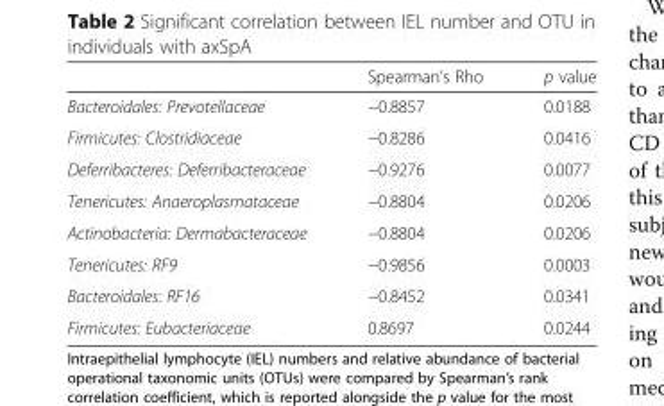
<table><thead><tr><td></td><td>Spearman’s Rho</td><td>p value</td></tr></thead><tbody><tr><td>Bacteroidales: Prevotellaceae</td><td>−0.8857</td><td>0.0188</td></tr><tr><td>Firmicutes: Clostridiaceae</td><td>−0.8286</td><td>0.0416</td></tr><tr><td>Deferribacteres: Deferribacteraceae</td><td>−0.9276</td><td>0.0077</td></tr><tr><td>Tenericutes: Anaeroplasmataceae</td><td>−0.8804</td><td>0.0206</td></tr><tr><td>Actinobacteria: Dermabacteraceae</td><td>−0.8804</td><td>0.0206</td></tr><tr><td>Tenericutes: RF9</td><td>−0.9856</td><td>0.0003</td></tr><tr><td>Bacteroidales: RF16</td><td>−0.8452</td><td>0.0341</td></tr><tr><td>Firmicutes: Eubacteriaceae</td><td>0.8697</td><td>0.0244</td></tr></tbody></table>